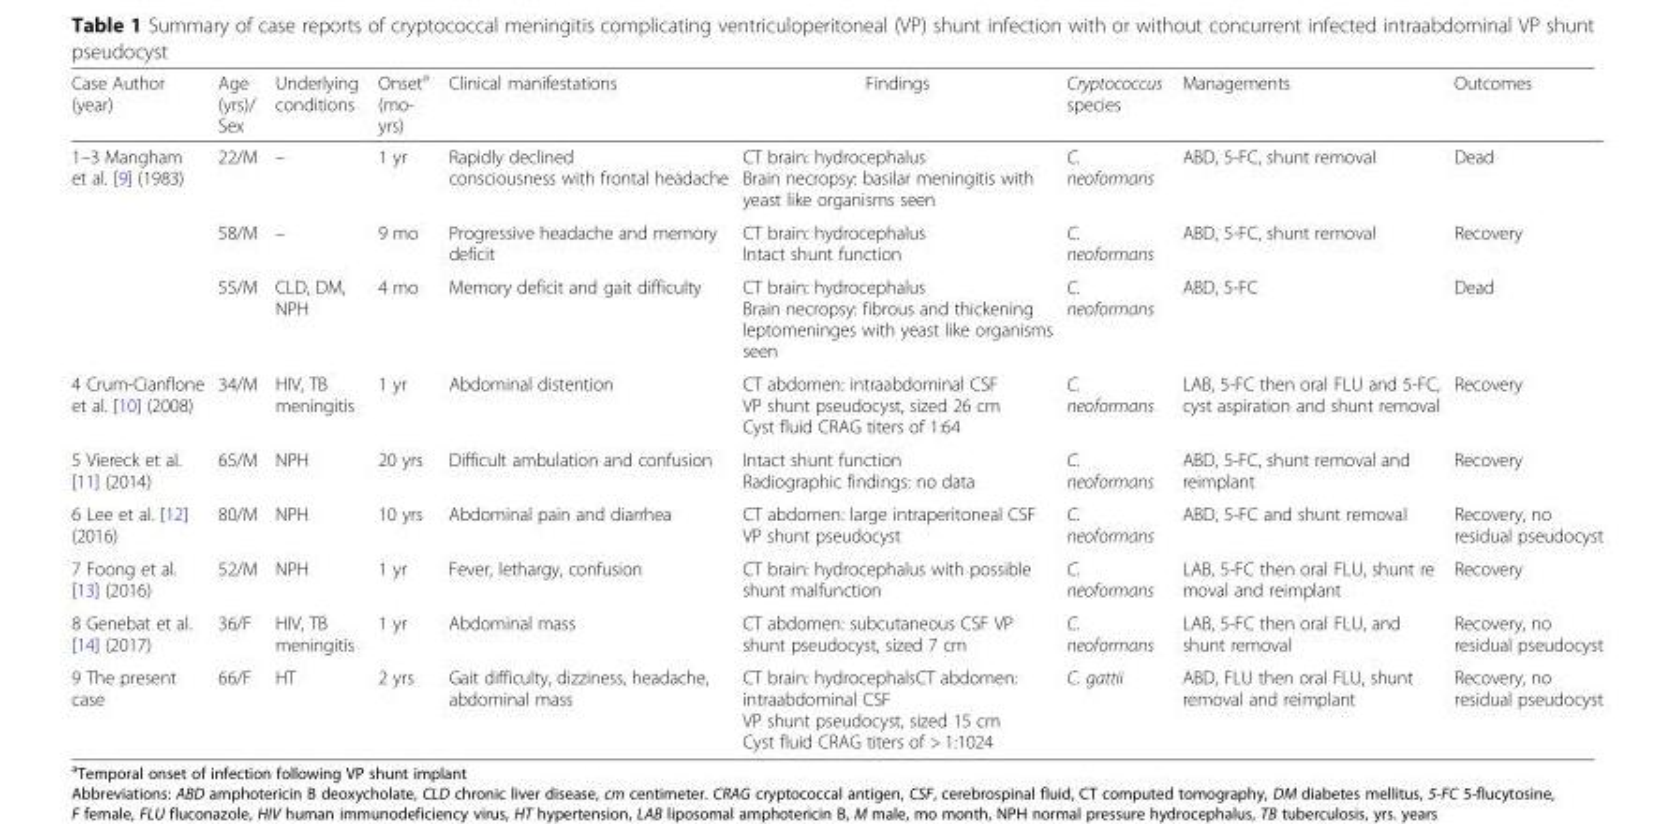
<table><thead><tr><td>Case Author (year)</td><td>Age (yrs)/ Sex</td><td>Underlying conditions</td><td>Onset<sup>a</sup> (mo- yrs)</td><td>Clinical manifestations</td><td>Findings</td><td>Cryptococcus species</td><td>Managements</td><td>Outcomes</td></tr></thead><tbody><tr><td rowspan="3">1–3 Mangham et al. [9] (1983)</td><td>22/M</td><td>–</td><td>1 yr</td><td>Rapidly declined consciousness with frontal headache</td><td>CT brain: hydrocephalus Brain necropsy: basilar meningitis with yeast like organisms seen</td><td>C. neoformans</td><td>ABD, 5-FC, shunt removal</td><td>Dead</td></tr><tr><td>58/M</td><td>–</td><td>9 mo</td><td>Progressive headache and memory deficit</td><td>CT brain: hydrocephalus Intact shunt function</td><td>C. neoformans</td><td>ABD, 5-FC, shunt removal</td><td>Recovery</td></tr><tr><td>55/M</td><td>CLD, DM, NPH</td><td>4 mo</td><td>Memory deficit and gait difficulty</td><td>CT brain: hydrocephalus Brain necropsy: fibrous and thickening leptomeninges with yeast like organisms seen</td><td>C. neoformans</td><td>ABD, 5-FC</td><td>Dead</td></tr><tr><td>4 Crum-Cianflone et al. [10] (2008)</td><td>34/M</td><td>HIV, TB meningitis</td><td>1 yr</td><td>Abdominal distention</td><td>CT abdomen: intraabdominal CSF VP shunt pseudocyst, sized 26 cm Cyst fluid CRAG titers of 1:64</td><td>C. neoformans</td><td>LAB, 5-FC then oral FLU and 5-FC, cyst aspiration and shunt removal</td><td>Recovery</td></tr><tr><td>5 Viereck et al. [11] (2014)</td><td>65/M</td><td>NPH</td><td>20 yrs</td><td>Difficult ambulation and confusion</td><td>Intact shunt function Radiographic findings: no data</td><td>C. neoformans</td><td>ABD, 5-FC, shunt removal and reimplant</td><td>Recovery</td></tr><tr><td>6 Lee et al. [12] (2016)</td><td>80/M</td><td>NPH</td><td>10 yrs</td><td>Abdominal pain and diarrhea</td><td>CT abdomen: large intraperitoneal CSF VP shunt pseudocyst</td><td>C. neoformans</td><td>ABD, 5-FC and shunt removal</td><td>Recovery, no residual pseudocyst</td></tr><tr><td>7 Foong et al. [13] (2016)</td><td>52/M</td><td>NPH</td><td>1 yr</td><td>Fever, lethargy, confusion</td><td>CT brain: hydrocephalus with possible shunt malfunction</td><td>C. neoformans</td><td>LAB, 5-FC then oral FLU, shunt re moval and reimplant</td><td>Recovery</td></tr><tr><td>8 Genebat et al. [14] (2017)</td><td>36/F</td><td>HIV, TB meningitis</td><td>1 yr</td><td>Abdominal mass</td><td>CT abdomen: subcutaneous CSF VP shunt pseudocyst, sized 7 cm</td><td>C. neoformans</td><td>LAB, 5-FC then oral FLU, and shunt removal</td><td>Recovery, no residual pseudocyst</td></tr><tr><td>9 The present case</td><td>66/F</td><td>HT</td><td>2 yrs</td><td>Gait difficulty, dizziness, headache, abdominal mass</td><td>CT brain: hydrocephalsCT abdomen: intraabdominal CSF VP shunt pseudocyst, sized 15 cm Cyst fluid CRAG titers of &gt; 1:1024</td><td>C. gattii</td><td>ABD, FLU then oral FLU, shunt removal and reimplant</td><td>Recovery, no residual pseudocyst</td></tr></tbody></table>